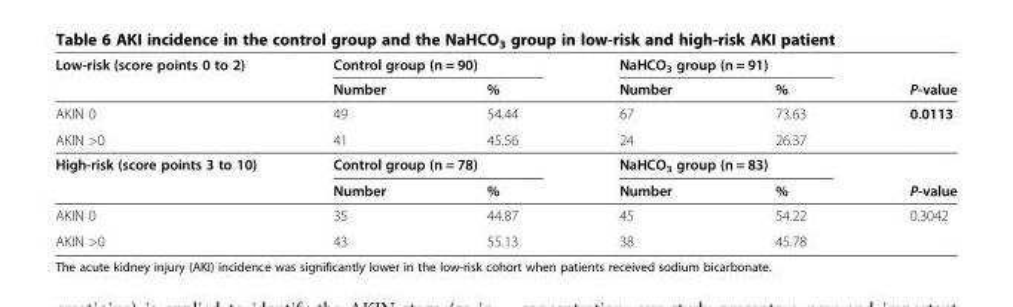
<table><thead><tr><td rowspan="2">Low-risk (score points 0 to 2)</td><td colspan="2">Control group (n = 90)</td><td colspan="2">NaHCO<sub>3</sub> group (n = 91)</td><td rowspan="2">P-value</td></tr><tr><td>Number</td><td>%</td><td>Number</td><td>%</td></tr></thead><tbody><tr><td>AKIN 0</td><td>49</td><td>54.44</td><td>67</td><td>73.63</td><td>0.0113</td></tr><tr><td>AKIN &gt;0</td><td>41</td><td>45.56</td><td>24</td><td>26.37</td><td></td></tr><tr><td rowspan="2">High-risk (score points 3 to 10)</td><td colspan="2">Control group (n = 78)</td><td colspan="2">NaHCO<sub>3</sub> group (n = 83)</td><td></td></tr><tr><td>Number</td><td>%</td><td>Number</td><td>%</td><td>P-value</td></tr><tr><td>AKIN 0</td><td>35</td><td>44.87</td><td>45</td><td>54.22</td><td>0.3042</td></tr><tr><td>AKIN &gt;0</td><td>43</td><td>55.13</td><td>38</td><td>45.78</td><td></td></tr></tbody></table>